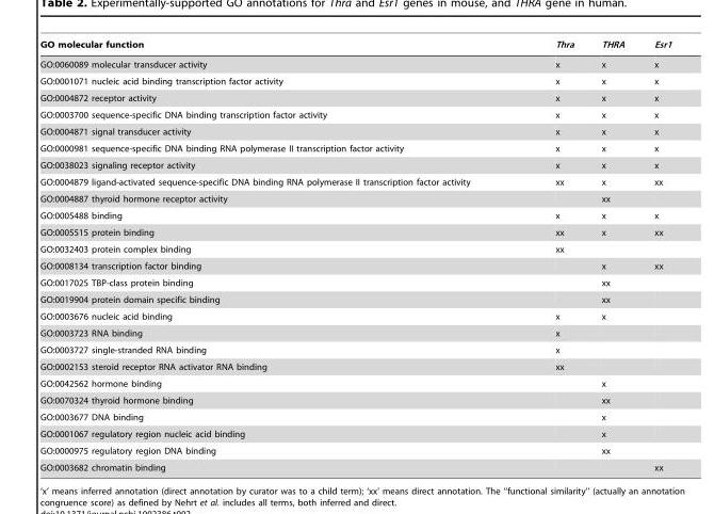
<table><thead><tr><td>GO molecular function</td><td>Thra</td><td>THRA</td><td>Esr1</td></tr></thead><tbody><tr><td>GO:0060089 molecular transducer activity</td><td>x</td><td>x</td><td>x</td></tr><tr><td>GO:0001071 nucleic acid binding transcription factor activity</td><td>x</td><td>x</td><td>x</td></tr><tr><td>GO:0004872 receptor activity</td><td>x</td><td>x</td><td>x</td></tr><tr><td>GO:0003700 sequence-specific DNA binding transcription factor activity</td><td>x</td><td>x</td><td>x</td></tr><tr><td>GO:0004871 signal transducer activity</td><td>x</td><td>x</td><td>x</td></tr><tr><td>GO:0000981 sequence-specific DNA binding RNA polymerase II transcription factor activity</td><td>x</td><td>x</td><td>x</td></tr><tr><td>GO:0038023 signaling receptor activity</td><td>x</td><td>x</td><td>x</td></tr><tr><td>GO:0004879 ligand-activated sequence-specific DNA binding RNA polymerase II transcription factor activity</td><td>xx</td><td>x</td><td>xx</td></tr><tr><td>GO:0004887 thyroid hormone receptor activity</td><td></td><td>xx</td><td></td></tr><tr><td>GO:0005488 binding</td><td>x</td><td>x</td><td>x</td></tr><tr><td>GO:0005515 protein binding</td><td>xx</td><td>x</td><td>xx</td></tr><tr><td>GO:0032403 protein complex binding</td><td>xx</td><td></td><td></td></tr><tr><td>GO:0008134 transcription factor binding</td><td></td><td>x</td><td>xx</td></tr><tr><td>GO:0017025 TBP-class protein binding</td><td></td><td>xx</td><td></td></tr><tr><td>GO:0019904 protein domain specific binding</td><td></td><td>xx</td><td></td></tr><tr><td>GO:0003676 nucleic acid binding</td><td>x</td><td>x</td><td></td></tr><tr><td>GO:0003723 RNA binding</td><td>x</td><td></td><td></td></tr><tr><td>GO:0003727 single-stranded RNA binding</td><td>x</td><td></td><td></td></tr><tr><td>GO:0002153 steroid receptor RNA activator RNA binding</td><td>xx</td><td></td><td></td></tr><tr><td>GO:0042562 hormone binding</td><td></td><td>x</td><td></td></tr><tr><td>GO:0070324 thyroid hormone binding</td><td></td><td>xx</td><td></td></tr><tr><td>GO:0003677 DNA binding</td><td></td><td>x</td><td></td></tr><tr><td>GO:0001067 regulatory region nucleic acid binding</td><td></td><td>x</td><td></td></tr><tr><td>GO:0000975 regulatory region DNA binding</td><td></td><td>xx</td><td></td></tr><tr><td>GO:0003682 chromatin binding</td><td></td><td></td><td>xx</td></tr></tbody></table>